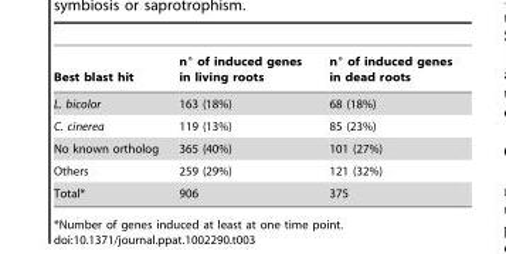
<table><thead><tr><td>Best blast hit</td><td>n° of induced genes in living roots</td><td>n° of induced genes in dead roots</td></tr></thead><tbody><tr><td>L. bicolor</td><td>163 (18%)</td><td>68 (18%)</td></tr><tr><td>C. cinerea</td><td>119 (13%)</td><td>85 (23%)</td></tr><tr><td>No known ortholog</td><td>365 (40%)</td><td>101 (27%)</td></tr><tr><td>Others</td><td>259 (29%)</td><td>121 (32%)</td></tr><tr><td>Total*</td><td>906</td><td>375</td></tr></tbody></table>